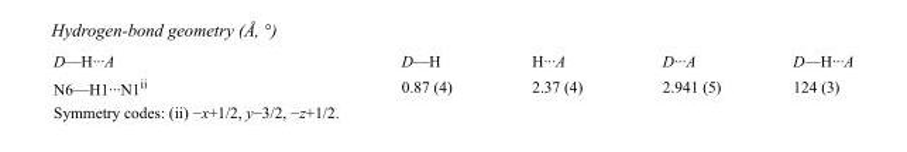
<table><tbody><tr><td>D—H···A</td><td>D—H</td><td>H···A</td><td>D···A</td><td>D—H···A</td></tr><tr><td>N6—H1···N1<sup>ii</sup></td><td>0.87 (4)</td><td>2.37 (4)</td><td>2.941 (5)</td><td>124 (3)</td></tr></tbody></table>